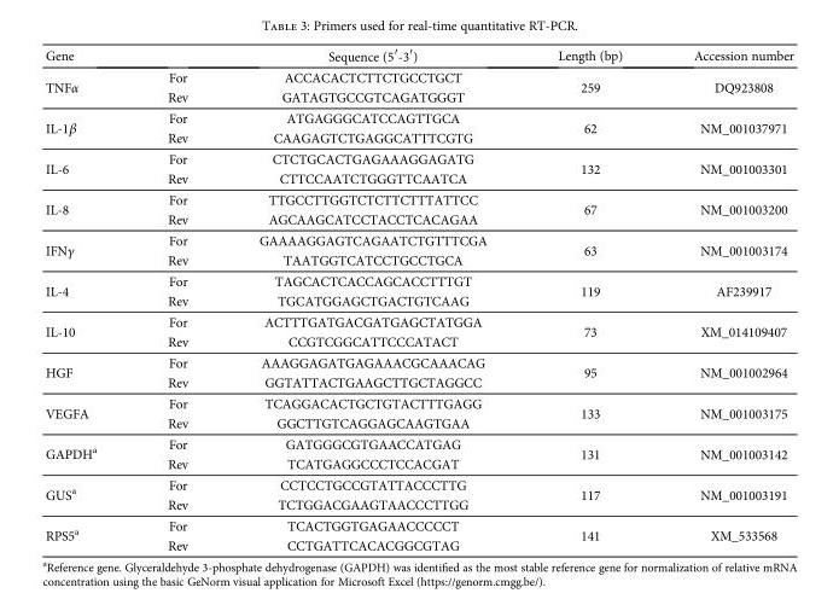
<table><thead><tr><td>Gene</td><td></td><td>Sequence (5′-3′)</td><td>Length (bp)</td><td>Accession number</td></tr></thead><tbody><tr><td rowspan="2">TNFα</td><td>For</td><td>ACCACACTCTTCTGCCTGCT</td><td rowspan="2">259</td><td rowspan="2">DQ923808</td></tr><tr><td>Rev</td><td>GATAGTGCCGTCAGATGGGT</td></tr><tr><td rowspan="2">IL-1β</td><td>For</td><td>ATGAGGGCATCCAGTTGCA</td><td rowspan="2">62</td><td rowspan="2">NM_001037971</td></tr><tr><td>Rev</td><td>CAAGAGTCTGAGGCATTTCGTG</td></tr><tr><td rowspan="2">IL-6</td><td>For</td><td>CTCTGCACTGAGAAAGGAGATG</td><td rowspan="2">132</td><td rowspan="2">NM_001003301</td></tr><tr><td>Rev</td><td>CTTCCAATCTGGGTTCAATCA</td></tr><tr><td rowspan="2">IL-8</td><td>For</td><td>TTGCCTTGGTCTCTTCTTTATTCC</td><td rowspan="2">67</td><td rowspan="2">NM_001003200</td></tr><tr><td>Rev</td><td>AGCAAGCATCCTACCTCACAGAA</td></tr><tr><td rowspan="2">IFNγ</td><td>For</td><td>GAAAAGGAGTCAGAATCTGTTTCGA</td><td rowspan="2">63</td><td rowspan="2">NM_001003174</td></tr><tr><td>Rev</td><td>TAATGGTCATCCTGCCTGCA</td></tr><tr><td rowspan="2">IL-4</td><td>For</td><td>TAGCACTCACCAGCACCTTTGT</td><td rowspan="2">119</td><td rowspan="2">AF239917</td></tr><tr><td>Rev</td><td>TGCATGGAGCTGACTGTCAAG</td></tr><tr><td rowspan="2">IL-10</td><td>For</td><td>ACTTTGATGACGATGAGCTATGGA</td><td rowspan="2">73</td><td rowspan="2">XM_014109407</td></tr><tr><td>Rev</td><td>CCGTCGGCATTCCCATACT</td></tr><tr><td rowspan="2">HGF</td><td>For</td><td>AAAGGAGATGAGAAACGCAAACAG</td><td rowspan="2">95</td><td rowspan="2">NM_001002964</td></tr><tr><td>Rev</td><td>GGTATTACTGAAGCTTGCTAGGCC</td></tr><tr><td rowspan="2">VEGFA</td><td>For</td><td>TCAGGACACTGCTGTACTTTGAGG</td><td rowspan="2">133</td><td rowspan="2">NM_001003175</td></tr><tr><td>Rev</td><td>GGCTTGTCAGGAGCAAGTGAA</td></tr><tr><td rowspan="2">GAPDH<sup>a</sup></td><td>For</td><td>GATGGGCGTGAACCATGAG</td><td rowspan="2">131</td><td rowspan="2">NM_001003142</td></tr><tr><td>Rev</td><td>TCATGAGGCCCTCCACGAT</td></tr><tr><td rowspan="2">GUS<sup>a</sup></td><td>For</td><td>CCTCCTGCCGTATTACCCTTG</td><td rowspan="2">117</td><td rowspan="2">NM_001003191</td></tr><tr><td>Rev</td><td>TCTGGACGAAGTAACCCTTGG</td></tr><tr><td rowspan="2">RPS5<sup>a</sup></td><td>For</td><td>TCACTGGTGAGAACCCCCT</td><td rowspan="2">141</td><td rowspan="2">XM_533568</td></tr><tr><td>Rev</td><td>CCTGATTCACACGGCGTAG</td></tr></tbody></table>